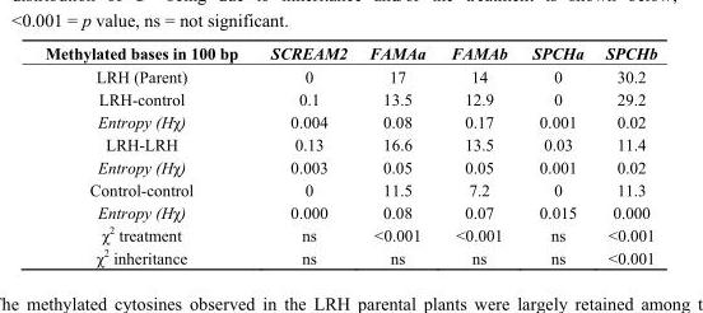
<table><thead><tr><td>Methylated bases in 100 bp</td><td>SCREAM2</td><td>FAMAa</td><td>FAMAb</td><td>SPCHa</td><td>SPCHb</td></tr></thead><tbody><tr><td>LRH (Parent)</td><td>0</td><td>17</td><td>14</td><td>0</td><td>30.2</td></tr><tr><td>LRH-control</td><td>0.1</td><td>13.5</td><td>12.9</td><td>0</td><td>29.2</td></tr><tr><td>Entropy (Hχ)</td><td>0.004</td><td>0.08</td><td>0.17</td><td>0.001</td><td>0.02</td></tr><tr><td>LRH-LRH</td><td>0.13</td><td>16.6</td><td>13.5</td><td>0.03</td><td>11.4</td></tr><tr><td>Entropy (Hχ)</td><td>0.003</td><td>0.05</td><td>0.05</td><td>0.001</td><td>0.02</td></tr><tr><td>Control-control</td><td>0</td><td>11.5</td><td>7.2</td><td>0</td><td>11.3</td></tr><tr><td>Entropy (Hχ)</td><td>0.000</td><td>0.08</td><td>0.07</td><td>0.015</td><td>0.000</td></tr><tr><td>χ<sup>2</sup> treatment</td><td>ns</td><td>&lt;0.001</td><td>&lt;0.001</td><td>ns</td><td>&lt;0.001</td></tr><tr><td>χ<sup>2</sup> inheritance</td><td>ns</td><td>ns</td><td>ns</td><td>ns</td><td>&lt;0.001</td></tr></tbody></table>